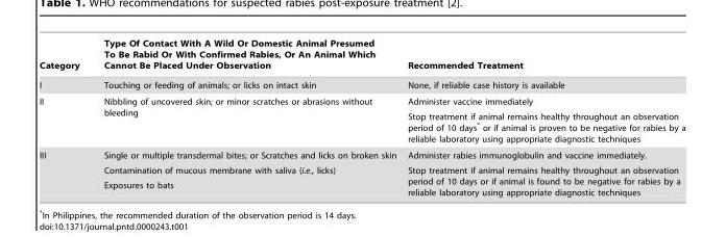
<table><thead><tr><td>Category</td><td>Type Of Contact With A Wild Or Domestic Animal Presumed To Be Rabid Or With Confirmed Rabies, Or An Animal Which Cannot Be Placed Under Observation</td><td>Recommended Treatment</td></tr></thead><tbody><tr><td>I</td><td>Touching or feeding of animals; or licks on intact skin</td><td>None, if reliable case history is available</td></tr><tr><td>II</td><td>Nibbling of uncovered skin; or minor scratches or abrasions without bleeding</td><td>Administer vaccine immediately Stop treatment if animal remains healthy throughout an observation period of 10 days* or if animal is proven to be negative for rabies by a reliable laboratory using appropriate diagnostic techniques</td></tr><tr><td>III</td><td>Single or multiple transdermal bites; or Scratches and licks on broken skin Contamination of mucous membrane with saliva (i.e., licks) Exposures to bats</td><td>Administer rabies immunoglobulin and vaccine immediately. Stop treatment if animal remains healthy throughout an observation period of 10 days or if animal is found to be negative for rabies by a reliable laboratory using appropriate diagnostic techniques</td></tr></tbody></table>